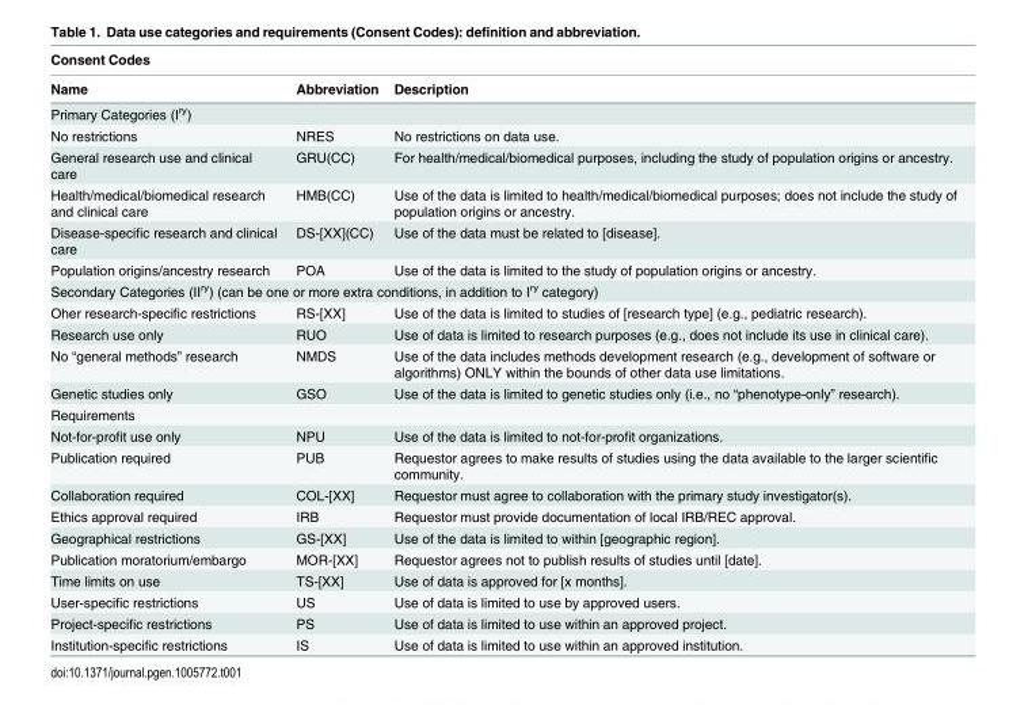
<table><thead><tr><td colspan="3">Consent Codes</td></tr><tr><td>Name</td><td>Abbreviation</td><td>Description</td></tr></thead><tbody><tr><td colspan="3">Primary Categories (I<sup>ry</sup>)</td></tr><tr><td>No restrictions</td><td>NRES</td><td>No restrictions on data use.</td></tr><tr><td>General research use and clinical care</td><td>GRU(CC)</td><td>For health/medical/biomedical purposes, including the study of population origins or ancestry.</td></tr><tr><td>Health/medical/biomedical research and clinical care</td><td>HMB(CC)</td><td>Use of the data is limited to health/medical/biomedical purposes; does not include the study of population origins or ancestry.</td></tr><tr><td>Disease-specific research and clinical care</td><td>DS-[XX](CC)</td><td>Use of the data must be related to [disease].</td></tr><tr><td>Population origins/ancestry research</td><td>POA</td><td>Use of the data is limited to the study of population origins or ancestry.</td></tr><tr><td colspan="3">Secondary Categories (II<sup>ry</sup>) (can be one or more extra conditions, in addition to I<sup>ry</sup> category)</td></tr><tr><td>Oher research-specific restrictions</td><td>RS-[XX]</td><td>Use of the data is limited to studies of [research type] (e.g., pediatric research).</td></tr><tr><td>Research use only</td><td>RUO</td><td>Use of data is limited to research purposes (e.g., does not include its use in clinical care).</td></tr><tr><td>No “general methods” research</td><td>NMDS</td><td>Use of the data includes methods development research (e.g., development of software or algorithms) ONLY within the bounds of other data use limitations.</td></tr><tr><td>Genetic studies only</td><td>GSO</td><td>Use of the data is limited to genetic studies only (i.e., no “phenotype-only” research).</td></tr><tr><td colspan="3">Requirements</td></tr><tr><td>Not-for-profit use only</td><td>NPU</td><td>Use of the data is limited to not-for-profit organizations.</td></tr><tr><td>Publication required</td><td>PUB</td><td>Requestor agrees to make results of studies using the data available to the larger scientific community.</td></tr><tr><td>Collaboration required</td><td>COL-[XX]</td><td>Requestor must agree to collaboration with the primary study investigator(s).</td></tr><tr><td>Ethics approval required</td><td>IRB</td><td>Requestor must provide documentation of local IRB/REC approval.</td></tr><tr><td>Geographical restrictions</td><td>GS-[XX]</td><td>Use of the data is limited to within [geographic region].</td></tr><tr><td>Publication moratorium/embargo</td><td>MOR-[XX]</td><td>Requestor agrees not to publish results of studies until [date].</td></tr><tr><td>Time limits on use</td><td>TS-[XX]</td><td>Use of data is approved for [x months].</td></tr><tr><td>User-specific restrictions</td><td>US</td><td>Use of data is limited to use by approved users.</td></tr><tr><td>Project-specific restrictions</td><td>PS</td><td>Use of data is limited to use within an approved project.</td></tr><tr><td>Institution-specific restrictions</td><td>IS</td><td>Use of data is limited to use within an approved institution.</td></tr></tbody></table>